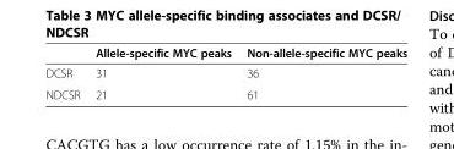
<table><thead><tr><td></td><td>Allele-specific MYC peaks</td><td>Non-allele-specific MYC peaks</td></tr></thead><tbody><tr><td>DCSR</td><td>31</td><td>36</td></tr><tr><td>NDCSR</td><td>21</td><td>61</td></tr></tbody></table>